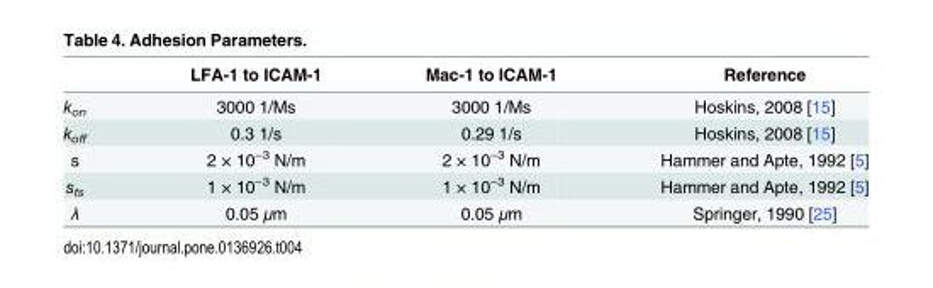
<table><thead><tr><td></td><td>LFA-1 to ICAM-1</td><td>Mac-1 to ICAM-1</td><td>Reference</td></tr></thead><tbody><tr><td>k<sub>on</sub></td><td>3000 1/Ms</td><td>3000 1/Ms</td><td>Hoskins, 2008 [15]</td></tr><tr><td>k<sub>off</sub></td><td>0.3 1/s</td><td>0.29 1/s</td><td>Hoskins, 2008 [15]</td></tr><tr><td>s</td><td>2 × 10<sup>−3</sup> N/m</td><td>2 × 10<sup>−3</sup> N/m</td><td>Hammer and Apte, 1992 [5]</td></tr><tr><td>s<sub>ts</sub></td><td>1 × 10<sup>−3</sup> N/m</td><td>1 × 10<sup>−3</sup> N/m</td><td>Hammer and Apte, 1992 [5]</td></tr><tr><td>λ</td><td>0.05 μm</td><td>0.05 μm</td><td>Springer, 1990 [25]</td></tr></tbody></table>